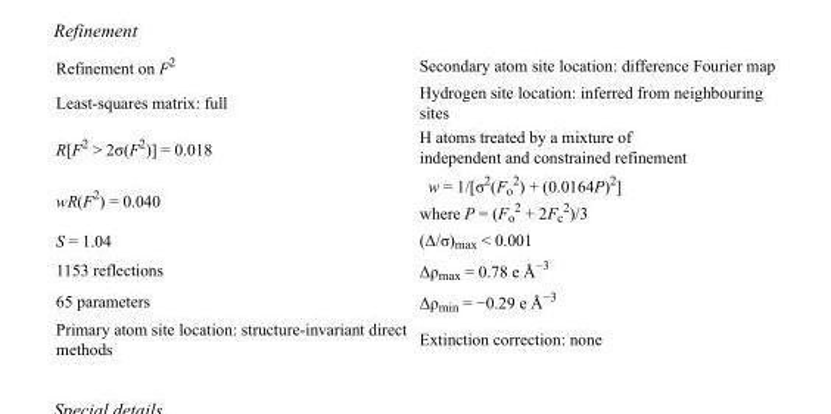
<table><tbody><tr><td>Refinement on F<sup>2</sup></td><td>Secondary atom site location: difference Fourier map</td></tr><tr><td>Least-squares matrix: full</td><td>Hydrogen site location: inferred from neighbouring sites</td></tr><tr><td>R[F<sup>2</sup> &gt; 2σ(F<sup>2</sup>)] = 0.018</td><td>H atoms treated by a mixture of independent and constrained refinement</td></tr><tr><td>wR(F<sup>2</sup>) = 0.040</td><td>w = 1/[σ<sup>2</sup>(F<sub>o</sub> <sup>2</sup>) + (0.0164P)<sup>2</sup>] where P = (F<sub>o</sub> <sup>2</sup> + 2F<sub>c</sub> <sup>2</sup>)/3</td></tr><tr><td>S = 1.04</td><td>(Δ/σ)<sub>max</sub> &lt; 0.001</td></tr><tr><td>1153 reflections</td><td>Δρ<sub>max</sub> = 0.78 e Å<sup>−3</sup></td></tr><tr><td>65 parameters</td><td>Δρ<sub>min</sub> = −0.29 e Å<sup>−3</sup></td></tr><tr><td>Primary atom site location: structure-invariant direct methods</td><td>Extinction correction: none</td></tr></tbody></table>